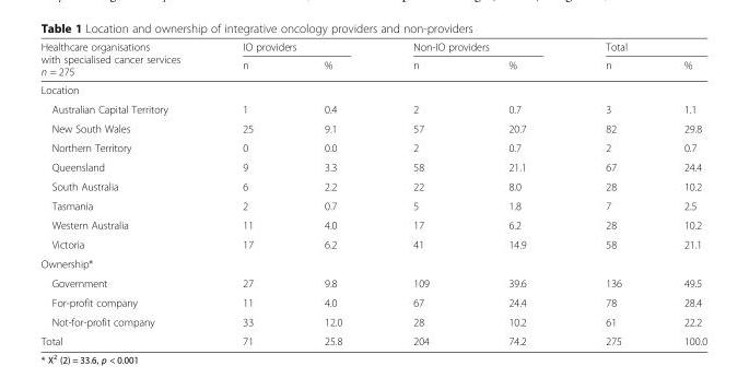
<table><thead><tr><td rowspan="2">Healthcare organisations with specialised cancer services n = 275</td><td colspan="2">IO providers</td><td colspan="2">Non-IO providers</td><td colspan="2">Total</td></tr><tr><td>n</td><td>%</td><td>n</td><td>%</td><td>n</td><td>%</td></tr></thead><tbody><tr><td colspan="7">Location</td></tr><tr><td>Australian Capital Territory</td><td>1</td><td>0.4</td><td>2</td><td>0.7</td><td>3</td><td>1.1</td></tr><tr><td>New South Wales</td><td>25</td><td>9.1</td><td>57</td><td>20.7</td><td>82</td><td>29.8</td></tr><tr><td>Northern Territory</td><td>0</td><td>0.0</td><td>2</td><td>0.7</td><td>2</td><td>0.7</td></tr><tr><td>Queensland</td><td>9</td><td>3.3</td><td>58</td><td>21.1</td><td>67</td><td>24.4</td></tr><tr><td>South Australia</td><td>6</td><td>2.2</td><td>22</td><td>8.0</td><td>28</td><td>10.2</td></tr><tr><td>Tasmania</td><td>2</td><td>0.7</td><td>5</td><td>1.8</td><td>7</td><td>2.5</td></tr><tr><td>Western Australia</td><td>11</td><td>4.0</td><td>17</td><td>6.2</td><td>28</td><td>10.2</td></tr><tr><td>Victoria</td><td>17</td><td>6.2</td><td>41</td><td>14.9</td><td>58</td><td>21.1</td></tr><tr><td colspan="7">Ownership*</td></tr><tr><td>Government</td><td>27</td><td>9.8</td><td>109</td><td>39.6</td><td>136</td><td>49.5</td></tr><tr><td>For-profit company</td><td>11</td><td>4.0</td><td>67</td><td>24.4</td><td>78</td><td>28.4</td></tr><tr><td>Not-for-profit company</td><td>33</td><td>12.0</td><td>28</td><td>10.2</td><td>61</td><td>22.2</td></tr><tr><td>Total</td><td>71</td><td>25.8</td><td>204</td><td>74.2</td><td>275</td><td>100.0</td></tr></tbody></table>